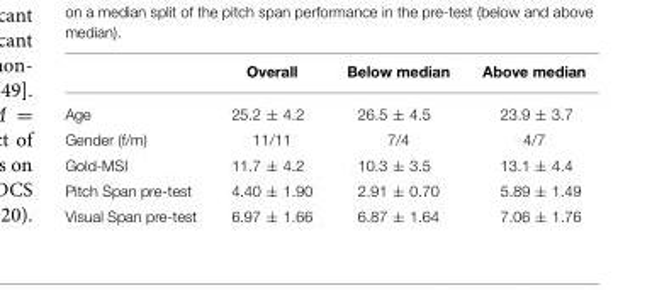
<table><thead><tr><td></td><td>Overall</td><td>Below median</td><td>Above median</td></tr></thead><tbody><tr><td>Age</td><td>25.2 ± 4.2</td><td>26.5 ± 4.5</td><td>23.9 ± 3.7</td></tr><tr><td>Gender (f/m)</td><td>11/11</td><td>7/4</td><td>4/7</td></tr><tr><td>Gold-MSI</td><td>11.7 ± 4.2</td><td>10.3 ± 3.5</td><td>13.1 ± 4.4</td></tr><tr><td>Pitch Span pre-test</td><td>4.40 ± 1.90</td><td>2.91 ± 0.70</td><td>5.89 ± 1.49</td></tr><tr><td>Visual Span pre-test</td><td>6.97 ± 1.66</td><td>6.87 ± 1.64</td><td>7.06 ± 1.76</td></tr></tbody></table>